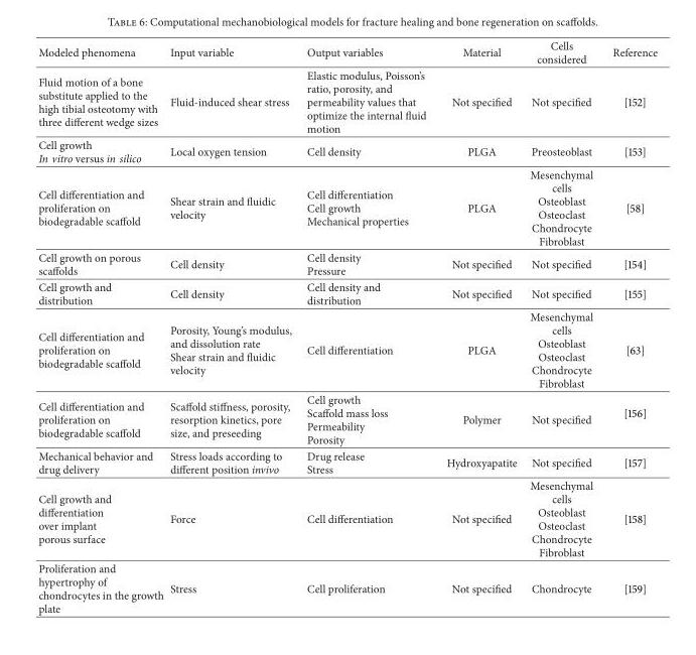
<table><thead><tr><td>Modeled phenomena</td><td>Input variable</td><td>Output variables</td><td>Material</td><td>Cells considered</td><td>Reference</td></tr></thead><tbody><tr><td>Fluid motion of a bone substitute applied to the high tibial osteotomy with three different wedge sizes</td><td>Fluid-induced shear stress</td><td>Elastic modulus, Poisson’s ratio, porosity, and permeability values that optimize the internal fluid motion</td><td>Not specified</td><td>Not specified</td><td>[152]</td></tr><tr><td>Cell growth In vitro versus in silico</td><td>Local oxygen tension</td><td>Cell density</td><td>PLGA</td><td>Preosteoblast</td><td>[153]</td></tr><tr><td>Cell differentiation and proliferation on biodegradable scaffold</td><td>Shear strain and fluidic velocity</td><td>Cell differentiation Cell growth Mechanical properties</td><td>PLGA</td><td>Mesenchymal cells Osteoblast Osteoclast Chondrocyte Fibroblast</td><td>[58]</td></tr><tr><td>Cell growth on porous scaffolds</td><td>Cell density</td><td>Cell density Pressure</td><td>Not specified</td><td>Not specified</td><td>[154]</td></tr><tr><td>Cell growth and distribution</td><td>Cell density</td><td>Cell density and distribution</td><td>Not specified</td><td>Not specified</td><td>[155]</td></tr><tr><td>Cell differentiation and proliferation on biodegradable scaffold</td><td>Porosity, Young’s modulus, and dissolution rate Shear strain and fluidic velocity</td><td>Cell differentiation</td><td>PLGA</td><td>Mesenchymal cells Osteoblast Osteoclast Chondrocyte Fibroblast</td><td>[63]</td></tr><tr><td>Cell differentiation and proliferation on biodegradable scaffold</td><td>Scaffold stiffness, porosity, resorption kinetics, pore size, and preseeding</td><td>Cell growth Scaffold mass loss Permeability Porosity</td><td>Polymer</td><td>Not specified</td><td>[156]</td></tr><tr><td>Mechanical behavior and drug delivery</td><td>Stress loads according to different position invivo</td><td>Drug release Stress</td><td>Hydroxyapatite</td><td>Not specified</td><td>[157]</td></tr><tr><td>Cell growth and differentiation over implant porous surface</td><td>Force</td><td>Cell differentiation</td><td>Not specified</td><td>Mesenchymal cells Osteoblast Osteoclast Chondrocyte Fibroblast</td><td>[158]</td></tr><tr><td>Proliferation and hypertrophy of chondrocytes in the growth plate</td><td>Stress</td><td>Cell proliferation</td><td>Not specified</td><td>Chondrocyte</td><td>[159]</td></tr></tbody></table>